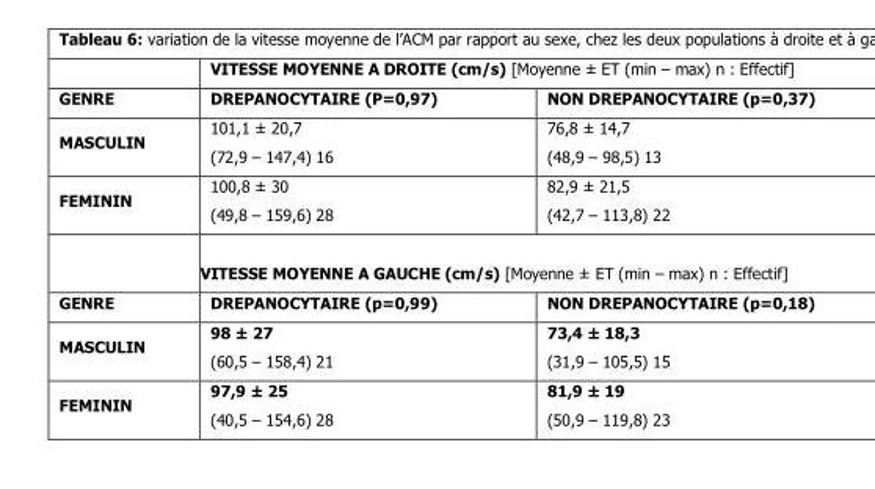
<table><thead><tr><td rowspan="2">GENRE</td><td colspan="2">VITESSE MOYENNE A DROITE (cm/s) [Moyenne ± ET (min – max) n : Effectif]</td></tr><tr><td>DREPANOCYTAIRE (P=0,97)</td><td>NON DREPANOCYTAIRE (p=0,37)</td></tr></thead><tbody><tr><td>MASCULIN</td><td>101,1 ± 20,7 (72,9 – 147,4) 16</td><td>76,8 ± 14,7 (48,9 – 98,5) 13</td></tr><tr><td rowspan="2">FEMININ</td><td>100,8 ± 30 (49,8 – 159,6) 28</td><td>82,9 ± 21,5 (42,7 – 113,8) 22</td></tr><tr><td colspan="2">VITESSE MOYENNE A GAUCHE (cm/s) [Moyenne ± ET (min – max) n : Effectif]</td></tr><tr><td>GENRE</td><td>DREPANOCYTAIRE (p=0,99)</td><td>NON DREPANOCYTAIRE (p=0,18)</td></tr><tr><td>MASCULIN</td><td>98 ± 27 (60,5 – 158,4) 21</td><td>73,4 ± 18,3 (31,9 – 105,5) 15</td></tr><tr><td>FEMININ</td><td>97,9 ± 25 (40,5 – 154,6) 28</td><td>81,9 ± 19 (50,9 – 119,8) 23</td></tr></tbody></table>